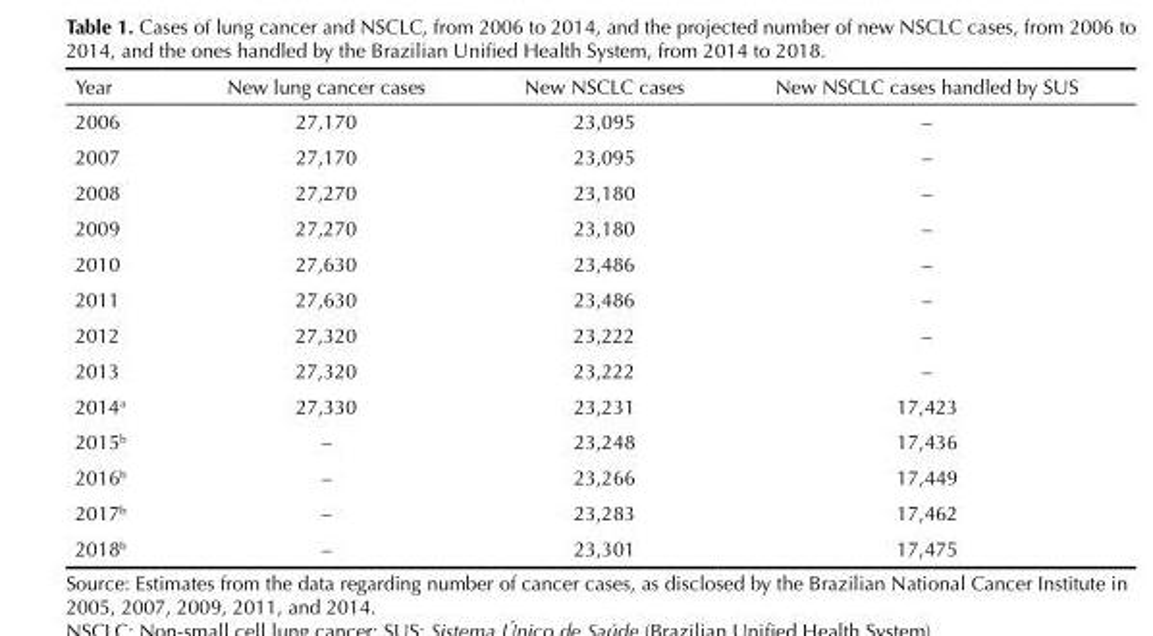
<table><thead><tr><td>Year</td><td>New lung cancer cases</td><td>New NSCLC cases</td><td>New NSCLC cases handled by SUS</td></tr></thead><tbody><tr><td>2006</td><td>27,170</td><td>23,095</td><td>–</td></tr><tr><td>2007</td><td>27,170</td><td>23,095</td><td>–</td></tr><tr><td>2008</td><td>27,270</td><td>23,180</td><td>–</td></tr><tr><td>2009</td><td>27,270</td><td>23,180</td><td>–</td></tr><tr><td>2010</td><td>27,630</td><td>23,486</td><td>–</td></tr><tr><td>2011</td><td>27,630</td><td>23,486</td><td>–</td></tr><tr><td>2012</td><td>27,320</td><td>23,222</td><td>–</td></tr><tr><td>2013</td><td>27,320</td><td>23,222</td><td>–</td></tr><tr><td>2014<sup>a</sup></td><td>27,330</td><td>23,231</td><td>17,423</td></tr><tr><td>2015<sup>b</sup></td><td>–</td><td>23,248</td><td>17,436</td></tr><tr><td>2016<sup>b</sup></td><td>–</td><td>23,266</td><td>17,449</td></tr><tr><td>2017<sup>b</sup></td><td>–</td><td>23,283</td><td>17,462</td></tr><tr><td>2018<sup>b</sup></td><td>–</td><td>23,301</td><td>17,475</td></tr></tbody></table>